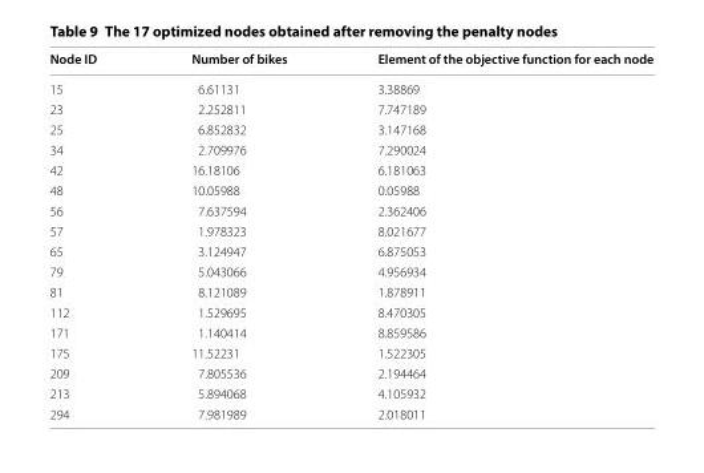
<table><thead><tr><td>Node ID</td><td>Number of bikes</td><td>Element of the objective function for each node</td></tr></thead><tbody><tr><td>15</td><td>6.61131</td><td>3.38869</td></tr><tr><td>23</td><td>2.252811</td><td>7.747189</td></tr><tr><td>25</td><td>6.852832</td><td>3.147168</td></tr><tr><td>34</td><td>2.709976</td><td>7.290024</td></tr><tr><td>42</td><td>16.18106</td><td>6.181063</td></tr><tr><td>48</td><td>10.05988</td><td>0.05988</td></tr><tr><td>56</td><td>7.637594</td><td>2.362406</td></tr><tr><td>57</td><td>1.978323</td><td>8.021677</td></tr><tr><td>65</td><td>3.124947</td><td>6.875053</td></tr><tr><td>79</td><td>5.043066</td><td>4.956934</td></tr><tr><td>81</td><td>8.121089</td><td>1.878911</td></tr><tr><td>112</td><td>1.529695</td><td>8.470305</td></tr><tr><td>171</td><td>1.140414</td><td>8.859586</td></tr><tr><td>175</td><td>11.52231</td><td>1.522305</td></tr><tr><td>209</td><td>7.805536</td><td>2.194464</td></tr><tr><td>213</td><td>5.894068</td><td>4.105932</td></tr><tr><td>294</td><td>7.981989</td><td>2.018011</td></tr></tbody></table>